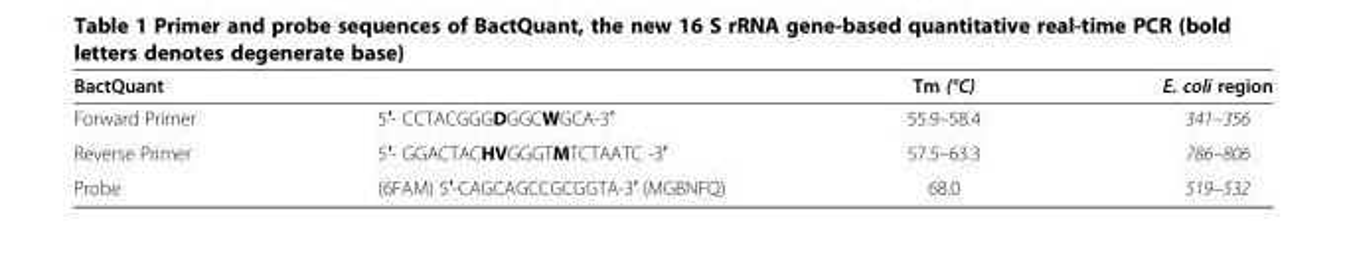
<table><thead><tr><td colspan="2">BactQuant</td><td rowspan="2">Tm (°C) 55.9–58.4</td><td rowspan="2">E. coli region 341–356</td></tr><tr><td>Forward Primer</td><td>5′- CCTACGGGDGGCWGCA-3′</td></tr></thead><tbody><tr><td>Reverse Primer</td><td>5′- GGACTACHVGGGTMTCTAATC -3′</td><td>57.5–63.3</td><td>786–806</td></tr><tr><td>Probe</td><td>(6FAM) 5′-CAGCAGCCGCGGTA-3′ (MGBNFQ)</td><td>68.0</td><td>519–532</td></tr></tbody></table>